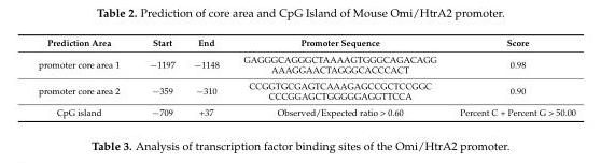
<table><thead><tr><td>Prediction Area</td><td>Start</td><td>End</td><td>Promoter Sequence</td><td>Score</td></tr></thead><tbody><tr><td>promoter core area 1</td><td>−1197</td><td>−1148</td><td>GAGGGCAGGGCTAAAAGTGGGCAGACAGG AAAGGAACTAGGGCACCCACT</td><td>0.98</td></tr><tr><td>promoter core area 2</td><td>−359</td><td>−310</td><td>CCGGTGCGAGTCAAAGAGCCGCTCCGGC CCCGGAGCTGGGGGAGGTTCCA</td><td>0.90</td></tr><tr><td>CpG island</td><td>−709</td><td>+37</td><td>Observed/Expected ratio &gt; 0.60</td><td>Percent C + Percent G &gt; 50.00</td></tr></tbody></table>